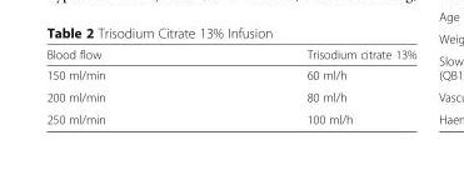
<table><thead><tr><td>Blood flow</td><td>Trisodium citrate 13%</td></tr></thead><tbody><tr><td>150 ml/min</td><td>60 ml/h</td></tr><tr><td>200 ml/min</td><td>80 ml/h</td></tr><tr><td>250 ml/min</td><td>100 ml/h</td></tr></tbody></table>